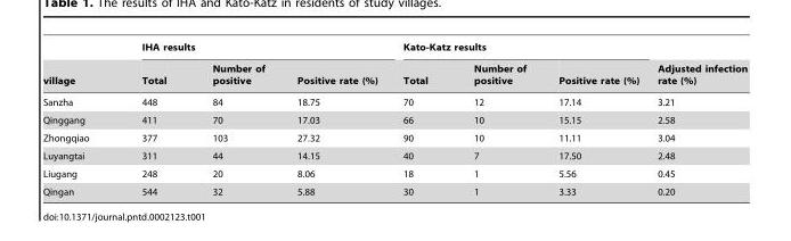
<table><thead><tr><td rowspan="2">village</td><td colspan="3">IHA results</td><td colspan="3">Kato-Katz results</td><td rowspan="2">Adjusted infection rate (%)</td></tr><tr><td>Total</td><td>Number of positive</td><td>Positive rate (%)</td><td>Total</td><td>Number of positive</td><td>Positive rate (%)</td></tr></thead><tbody><tr><td>Sanzha</td><td>448</td><td>84</td><td>18.75</td><td>70</td><td>12</td><td>17.14</td><td>3.21</td></tr><tr><td>Qinggang</td><td>411</td><td>70</td><td>17.03</td><td>66</td><td>10</td><td>15.15</td><td>2.58</td></tr><tr><td>Zhongqiao</td><td>377</td><td>103</td><td>27.32</td><td>90</td><td>10</td><td>11.11</td><td>3.04</td></tr><tr><td>Luyangtai</td><td>311</td><td>44</td><td>14.15</td><td>40</td><td>7</td><td>17.50</td><td>2.48</td></tr><tr><td>Liugang</td><td>248</td><td>20</td><td>8.06</td><td>18</td><td>1</td><td>5.56</td><td>0.45</td></tr><tr><td>Qingan</td><td>544</td><td>32</td><td>5.88</td><td>30</td><td>1</td><td>3.33</td><td>0.20</td></tr></tbody></table>